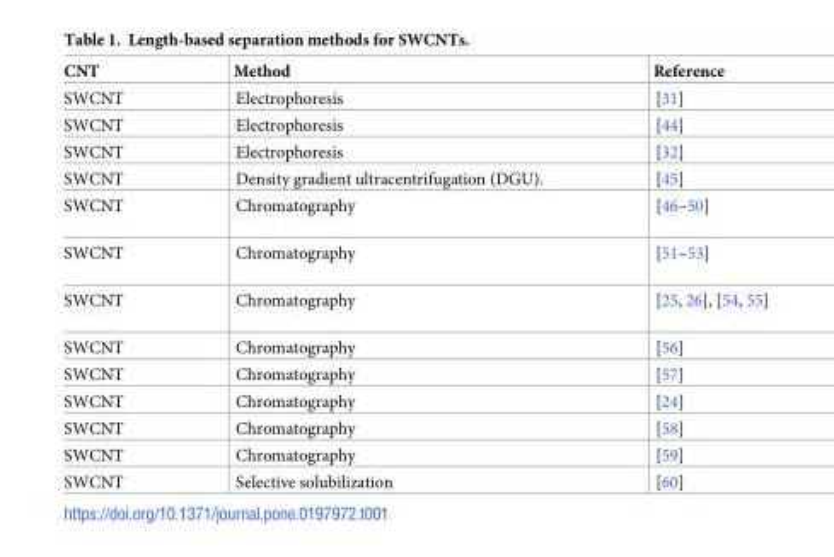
<table><thead><tr><td>CNT</td><td>Method</td><td>Reference</td></tr></thead><tbody><tr><td>SWCNT</td><td>Electrophoresis</td><td>[31]</td></tr><tr><td>SWCNT</td><td>Electrophoresis</td><td>[44]</td></tr><tr><td>SWCNT</td><td>Electrophoresis</td><td>[32]</td></tr><tr><td>SWCNT</td><td>Density gradient ultracentrifugation (DGU).</td><td>[45]</td></tr><tr><td>SWCNT</td><td>Chromatography</td><td>[46–50]</td></tr><tr><td>SWCNT</td><td>Chromatography</td><td>[51–53]</td></tr><tr><td>SWCNT</td><td>Chromatography</td><td>[25, 26], [54, 55]</td></tr><tr><td>SWCNT</td><td>Chromatography</td><td>[56]</td></tr><tr><td>SWCNT</td><td>Chromatography</td><td>[57]</td></tr><tr><td>SWCNT</td><td>Chromatography</td><td>[24]</td></tr><tr><td>SWCNT</td><td>Chromatography</td><td>[58]</td></tr><tr><td>SWCNT</td><td>Chromatography</td><td>[59]</td></tr><tr><td>SWCNT</td><td>Selective solubilization</td><td>[60]</td></tr></tbody></table>